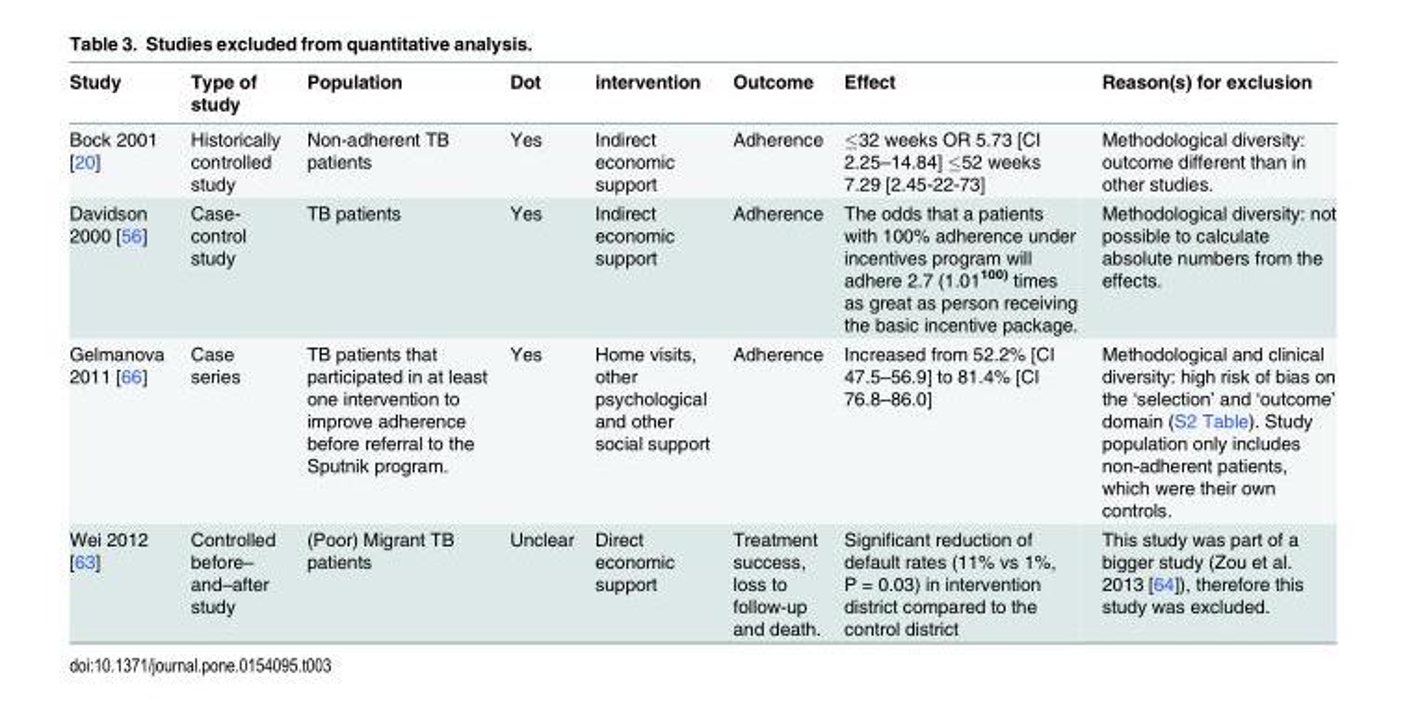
<table><thead><tr><td>Study</td><td>Type of study</td><td>Population</td><td>Dot</td><td>intervention</td><td>Outcome</td><td>Effect</td><td>Reason(s) for exclusion</td></tr></thead><tbody><tr><td>Bock 2001 [20]</td><td>Historically controlled study</td><td>Non-adherent TB patients</td><td>Yes</td><td>Indirect economic support</td><td>Adherence</td><td>≤32 weeks OR 5.73 [CI 2.25–14.84] ≤52 weeks 7.29 [2.45-22-73]</td><td>Methodological diversity: outcome different than in other studies.</td></tr><tr><td>Davidson 2000 [56]</td><td>Case- control study</td><td>TB patients</td><td>Yes</td><td>Indirect economic support</td><td>Adherence</td><td>The odds that a patients with 100% adherence under incentives program will adhere 2.7 (1.01<sup>100)</sup> times as great as person receiving the basic incentive package.</td><td>Methodological diversity: not possible to calculate absolute numbers from the effects.</td></tr><tr><td>Gelmanova 2011 [66]</td><td>Case series</td><td>TB patients that participated in at least one intervention to improve adherence before referral to the Sputnik program.</td><td>Yes</td><td>Home visits, other psychological and other social support</td><td>Adherence</td><td>Increased from 52.2% [CI 47.5–56.9] to 81.4% [CI 76.8–86.0]</td><td>Methodological and clinical diversity: high risk of bias on the ‘selection’ and ‘outcome’ domain (S2 Table). Study population only includes non-adherent patients, which were their own controls.</td></tr><tr><td>Wei 2012 [63]</td><td>Controlled before– and–after study</td><td>(Poor) Migrant TB patients</td><td>Unclear</td><td>Direct economic support</td><td>Treatment success, loss to follow-up and death.</td><td>Significant reduction of default rates (11% vs 1%, P = 0.03) in intervention district compared to the control district</td><td>This study was part of a bigger study (Zou et al. 2013 [64]), therefore this study was excluded.</td></tr></tbody></table>